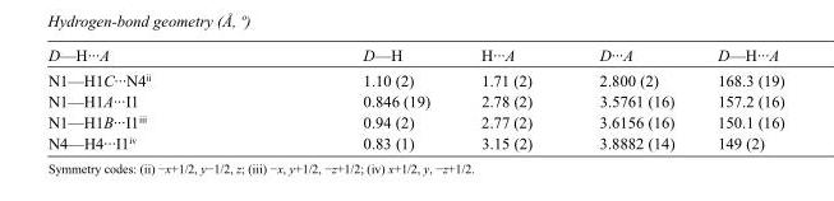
<table><tbody><tr><td>D—H···A</td><td>D—H</td><td>H···A</td><td>D···A</td><td>D—H···A</td></tr><tr><td>N1—H1C···N4<sup>ii</sup></td><td>1.10 (2)</td><td>1.71 (2)</td><td>2.800 (2)</td><td>168.3 (19)</td></tr><tr><td>N1—H1A···I1</td><td>0.846 (19)</td><td>2.78 (2)</td><td>3.5761 (16)</td><td>157.2 (16)</td></tr><tr><td>N1—H1B···I1<sup>iii</sup></td><td>0.94 (2)</td><td>2.77 (2)</td><td>3.6156 (16)</td><td>150.1 (16)</td></tr><tr><td>N4—H4···I1<sup>iv</sup></td><td>0.83 (1)</td><td>3.15 (2)</td><td>3.8882 (14)</td><td>149 (2)</td></tr></tbody></table>